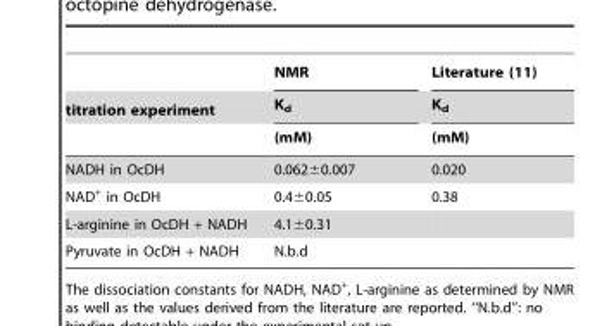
<table><thead><tr><td rowspan="3">titration experiment</td><td rowspan="3">NMR K<sub>d</sub> (mM)</td><td rowspan="3">Literature (11) K<sub>d</sub> (mM)</td></tr><tr></tr><tr></tr></thead><tbody><tr><td>NADH in OcDH</td><td>0.062±0.007</td><td>0.020</td></tr><tr><td>NAD<sup>+</sup> in OcDH</td><td>0.4±0.05</td><td>0.38</td></tr><tr><td>L-arginine in OcDH + NADH</td><td>4.1±0.31</td><td></td></tr><tr><td>Pyruvate in OcDH + NADH</td><td>N.b.d</td><td></td></tr></tbody></table>